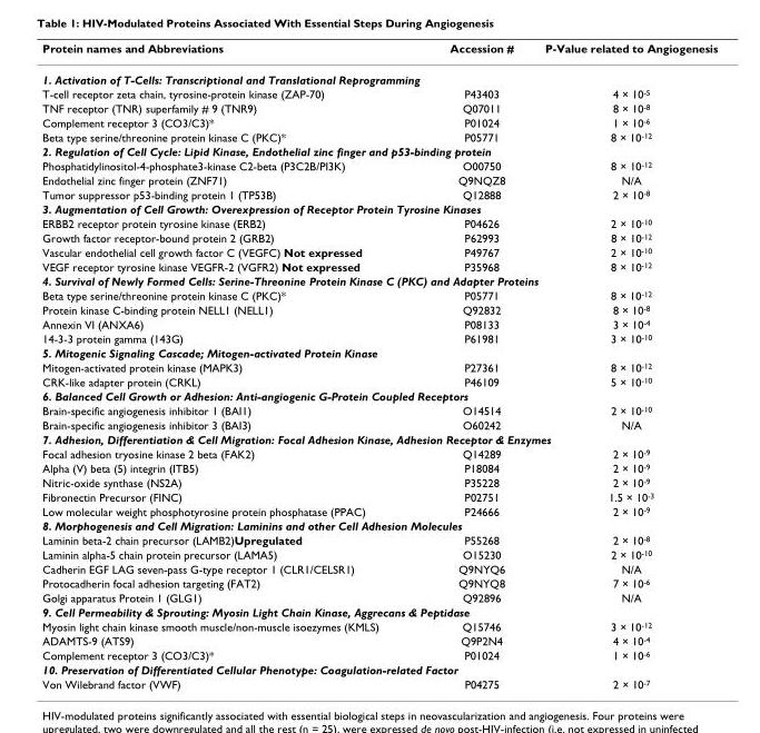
<table><thead><tr><td>Protein names and Abbreviations</td><td>Accession #</td><td>P-Value related to Angiogenesis</td></tr></thead><tbody><tr><td colspan="3">1. Activation of T-Cells: Transcriptional and Translational Reprogramming</td></tr><tr><td>T-cell receptor zeta chain, tyrosine-protein kinase (ZAP-70)</td><td>P43403</td><td>4 × 10<sup>-5</sup></td></tr><tr><td>TNF receptor (TNR) superfamily # 9 (TNR9)</td><td>Q07011</td><td>8 × 10<sup>-8</sup></td></tr><tr><td>Complement receptor 3 (CO3/C3)*</td><td>P01024</td><td>1 × 10<sup>-6</sup></td></tr><tr><td>Beta type serine/threonine protein kinase C (PKC)*</td><td>P05771</td><td>8 × 10<sup>-12</sup></td></tr><tr><td colspan="3">2. Regulation of Cell Cycle: Lipid Kinase, Endothelial zinc finger and p53-binding protein</td></tr><tr><td>Phosphatidylinositol-4-phosphate3-kinase C2-beta (P3C2B/PI3K)</td><td>O00750</td><td>8 × 10<sup>-12</sup></td></tr><tr><td>Endothelial zinc finger protein (ZNF71)</td><td>Q9NQZ8</td><td>N/A</td></tr><tr><td>Tumor suppressor p53-binding protein 1 (TP53B)</td><td>Q12888</td><td>2 × 10<sup>-8</sup></td></tr><tr><td colspan="3">3. Augmentation of Cell Growth: Overexpression of Receptor Protein Tyrosine Kinases</td></tr><tr><td>ERBB2 receptor protein tyrosine kinase (ERB2)</td><td>P04626</td><td>2 × 10<sup>-10</sup></td></tr><tr><td>Growth factor receptor-bound protein 2 (GRB2)</td><td>P62993</td><td>8 × 10<sup>-12</sup></td></tr><tr><td>Vascular endothelial cell growth factor C (VEGFC) Not expressed</td><td>P49767</td><td>2 × 10<sup>-10</sup></td></tr><tr><td>VEGF receptor tyrosine kinase VEGFR-2 (VGFR2) Not expressed</td><td>P35968</td><td>8 × 10<sup>-12</sup></td></tr><tr><td colspan="3">4. Survival of Newly Formed Cells: Serine-Threonine Protein Kinase C (PKC) and Adapter Proteins</td></tr><tr><td>Beta type serine/threonine protein kinase C (PKC)*</td><td>P05771</td><td>8 × 10<sup>-12</sup></td></tr><tr><td>Protein kinase C-binding protein NELL1 (NELL1)</td><td>Q92832</td><td>8 × 10<sup>-8</sup></td></tr><tr><td>Annexin VI (ANXA6)</td><td>P08133</td><td>3 × 10<sup>-4</sup></td></tr><tr><td>14-3-3 protein gamma (143G)</td><td>P61981</td><td>3 × 10<sup>-10</sup></td></tr><tr><td colspan="3">5. Mitogenic Signaling Cascade; Mitogen-activated Protein Kinase</td></tr><tr><td>Mitogen-activated protein kinase (MAPK3)</td><td>P27361</td><td>8 × 10<sup>-12</sup></td></tr><tr><td>CRK-like adapter protein (CRKL)</td><td>P46109</td><td>5 × 10<sup>-10</sup></td></tr><tr><td colspan="3">6. Balanced Cell Growth or Adhesion: Anti-angiogenic G-Protein Coupled Receptors</td></tr><tr><td>Brain-specific angiogenesis inhibitor 1 (BAI1)</td><td>O14514</td><td>2 × 10<sup>-10</sup></td></tr><tr><td>Brain-specific angiogenesis inhibitor 3 (BAI3)</td><td>O60242</td><td>N/A</td></tr><tr><td colspan="3">7. Adhesion, Differentiation &amp; Cell Migration: Focal Adhesion Kinase, Adhesion Receptor &amp; Enzymes</td></tr><tr><td>Focal adhesion tryosine kinase 2 beta (FAK2)</td><td>Q14289</td><td>2 × 10<sup>-9</sup></td></tr><tr><td>Alpha (V) beta (5) integrin (ITB5)</td><td>P18084</td><td>2 × 10<sup>-9</sup></td></tr><tr><td>Nitric-oxide synthase (NS2A)</td><td>P35228</td><td>2 × 10<sup>-9</sup></td></tr><tr><td>Fibronectin Precursor (FINC)</td><td>P02751</td><td>1.5 × 10<sup>-3</sup></td></tr><tr><td>Low molecular weight phosphotyrosine protein phosphatase (PPAC)</td><td>P24666</td><td>2 × 10<sup>-9</sup></td></tr><tr><td colspan="3">8. Morphogenesis and Cell Migration: Laminins and other Cell Adhesion Molecules</td></tr><tr><td>Laminin beta-2 chain precursor (LAMB2)Upregulated</td><td>P55268</td><td>2 × 10<sup>-8</sup></td></tr><tr><td>Laminin alpha-5 chain protein precursor (LAMA5)</td><td>O15230</td><td>2 × 10<sup>-10</sup></td></tr><tr><td>Cadherin EGF LAG seven-pass G-type receptor 1 (CLR1/CELSR1)</td><td>Q9NYQ6</td><td>N/A</td></tr><tr><td>Protocadherin focal adhesion targeting (FAT2)</td><td>Q9NYQ8</td><td>7 × 10<sup>-6</sup></td></tr><tr><td>Golgi apparatus Protein 1 (GLG1)</td><td>Q92896</td><td>N/A</td></tr><tr><td colspan="3">9. Cell Permeability &amp; Sprouting: Myosin Light Chain Kinase, Aggrecans &amp; Peptidase</td></tr><tr><td>Myosin light chain kinase smooth muscle/non-muscle isoezymes (KMLS)</td><td>Q15746</td><td>3 × 10<sup>-12</sup></td></tr><tr><td>ADAMTS-9 (ATS9)</td><td>Q9P2N4</td><td>4 × 10<sup>-4</sup></td></tr><tr><td>Complement receptor 3 (CO3/C3)*</td><td>P01024</td><td>1 × 10<sup>-6</sup></td></tr><tr><td colspan="3">10. Preservation of Differentiated Cellular Phenotype: Coagulation-related Factor</td></tr><tr><td>Von Wilebrand factor (VWF)</td><td>P04275</td><td>2 × 10<sup>-7</sup></td></tr></tbody></table>